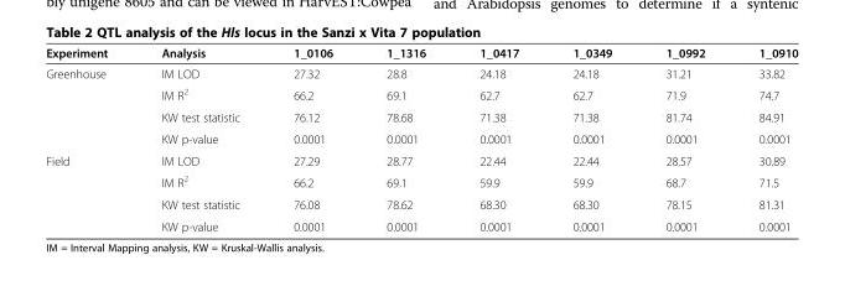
<table><thead><tr><td>Experiment</td><td>Analysis</td><td>1_0106</td><td>1_1316</td><td>1_0417</td><td>1_0349</td><td>1_0992</td><td>1_0910</td></tr></thead><tbody><tr><td rowspan="4">Greenhouse</td><td>IM LOD</td><td>27.32</td><td>28.8</td><td>24.18</td><td>24.18</td><td>31.21</td><td>33.82</td></tr><tr><td>IM R<sup>2</sup></td><td>66.2</td><td>69.1</td><td>62.7</td><td>62.7</td><td>71.9</td><td>74.7</td></tr><tr><td>KW test statistic</td><td>76.12</td><td>78.68</td><td>71.38</td><td>71.38</td><td>81.74</td><td>84.91</td></tr><tr><td>KW p-value</td><td>0.0001</td><td>0.0001</td><td>0.0001</td><td>0.0001</td><td>0.0001</td><td>0.0001</td></tr><tr><td rowspan="4">Field</td><td>IM LOD</td><td>27.29</td><td>28.77</td><td>22.44</td><td>22.44</td><td>28.57</td><td>30.89</td></tr><tr><td>IM R<sup>2</sup></td><td>66.2</td><td>69.1</td><td>59.9</td><td>59.9</td><td>68.7</td><td>71.5</td></tr><tr><td>KW test statistic</td><td>76.08</td><td>78.62</td><td>68.30</td><td>68.30</td><td>78.15</td><td>81.31</td></tr><tr><td>KW p-value</td><td>0.0001</td><td>0.0001</td><td>0.0001</td><td>0.0001</td><td>0.0001</td><td>0.0001</td></tr></tbody></table>